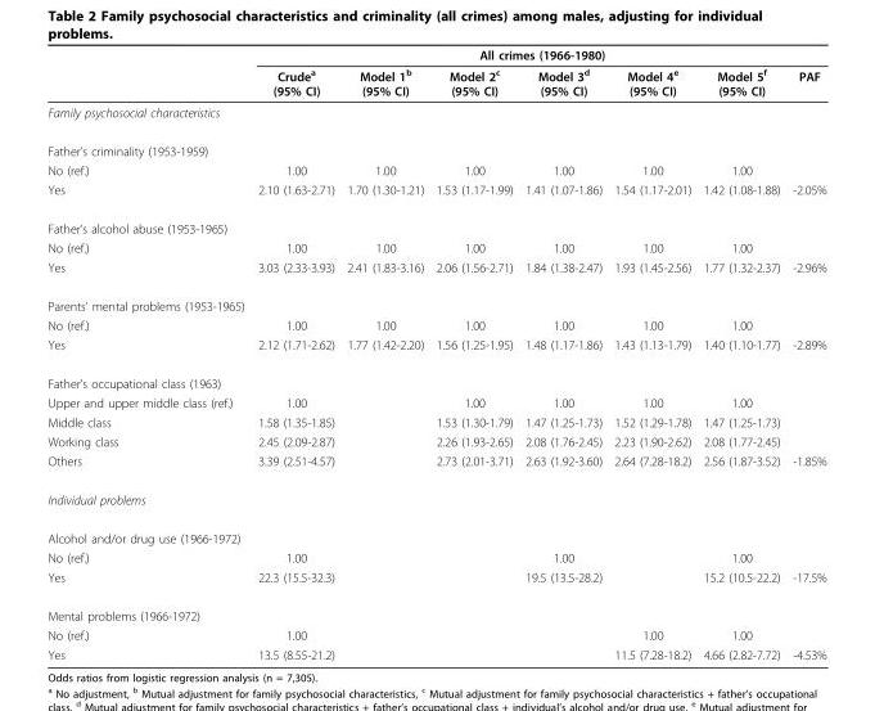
<table><thead><tr><td rowspan="2"></td><td colspan="7">All crimes (1966-1980)</td></tr><tr><td>Crude<sup>a</sup> (95% CI)</td><td>Model 1<sup>b</sup> (95% CI)</td><td>Model 2<sup>c</sup> (95% CI)</td><td>Model 3<sup>d</sup> (95% CI)</td><td>Model 4<sup>e</sup> (95% CI)</td><td>Model 5<sup>f</sup> (95% CI)</td><td>PAF</td></tr></thead><tbody><tr><td colspan="8">Family psychosocial characteristics</td></tr><tr><td colspan="8">Father’s criminality (1953-1959)</td></tr><tr><td>No (ref.)</td><td>1.00</td><td>1.00</td><td>1.00</td><td>1.00</td><td>1.00</td><td>1.00</td><td></td></tr><tr><td>Yes</td><td>2.10 (1.63-2.71)</td><td>1.70 (1.30-1.21)</td><td>1.53 (1.17-1.99)</td><td>1.41 (1.07-1.86)</td><td>1.54 (1.17-2.01)</td><td>1.42 (1.08-1.88)</td><td>-2.05%</td></tr><tr><td colspan="8">Father’s alcohol abuse (1953-1965)</td></tr><tr><td>No (ref.)</td><td>1.00</td><td>1.00</td><td>1.00</td><td>1.00</td><td>1.00</td><td>1.00</td><td></td></tr><tr><td>Yes</td><td>3.03 (2.33-3.93)</td><td>2.41 (1.83-3.16)</td><td>2.06 (1.56-2.71)</td><td>1.84 (1.38-2.47)</td><td>1.93 (1.45-2.56)</td><td>1.77 (1.32-2.37)</td><td>-2.96%</td></tr><tr><td colspan="8">Parents’ mental problems (1953-1965)</td></tr><tr><td>No (ref.)</td><td>1.00</td><td>1.00</td><td>1.00</td><td>1.00</td><td>1.00</td><td>1.00</td><td></td></tr><tr><td>Yes</td><td>2.12 (1.71-2.62)</td><td>1.77 (1.42-2.20)</td><td>1.56 (1.25-1.95)</td><td>1.48 (1.17-1.86)</td><td>1.43 (1.13-1.79)</td><td>1.40 (1.10-1.77)</td><td>-2.89%</td></tr><tr><td colspan="8">Father’s occupational class (1963)</td></tr><tr><td>Upper and upper middle class (ref.)</td><td>1.00</td><td></td><td>1.00</td><td>1.00</td><td>1.00</td><td>1.00</td><td></td></tr><tr><td>Middle class</td><td>1.58 (1.35-1.85)</td><td></td><td>1.53 (1.30-1.79)</td><td>1.47 (1.25-1.73)</td><td>1.52 (1.29-1.78)</td><td>1.47 (1.25-1.73)</td><td></td></tr><tr><td>Working class</td><td>2.45 (2.09-2.87)</td><td></td><td>2.26 (1.93-2.65)</td><td>2.08 (1.76-2.45)</td><td>2.23 (1.90-2.62)</td><td>2.08 (1.77-2.45)</td><td></td></tr><tr><td>Others</td><td>3.39 (2.51-4.57)</td><td></td><td>2.73 (2.01-3.71)</td><td>2.63 (1.92-3.60)</td><td>2.64 (7.28-18.2)</td><td>2.56 (1.87-3.52)</td><td>-1.85%</td></tr><tr><td colspan="8">Individual problems</td></tr><tr><td colspan="8">Alcohol and/or drug use (1966-1972)</td></tr><tr><td>No (ref.)</td><td>1.00</td><td></td><td></td><td>1.00</td><td></td><td>1.00</td><td></td></tr><tr><td>Yes</td><td>22.3 (15.5-32.3)</td><td></td><td></td><td>19.5 (13.5-28.2)</td><td></td><td>15.2 (10.5-22.2)</td><td>-17.5%</td></tr><tr><td colspan="8">Mental problems (1966-1972)</td></tr><tr><td>No (ref.)</td><td>1.00</td><td></td><td></td><td></td><td>1.00</td><td>1.00</td><td></td></tr><tr><td>Yes</td><td>13.5 (8.55-21.2)</td><td></td><td></td><td></td><td>11.5 (7.28-18.2)</td><td>4.66 (2.82-7.72)</td><td>-4.53%</td></tr></tbody></table>